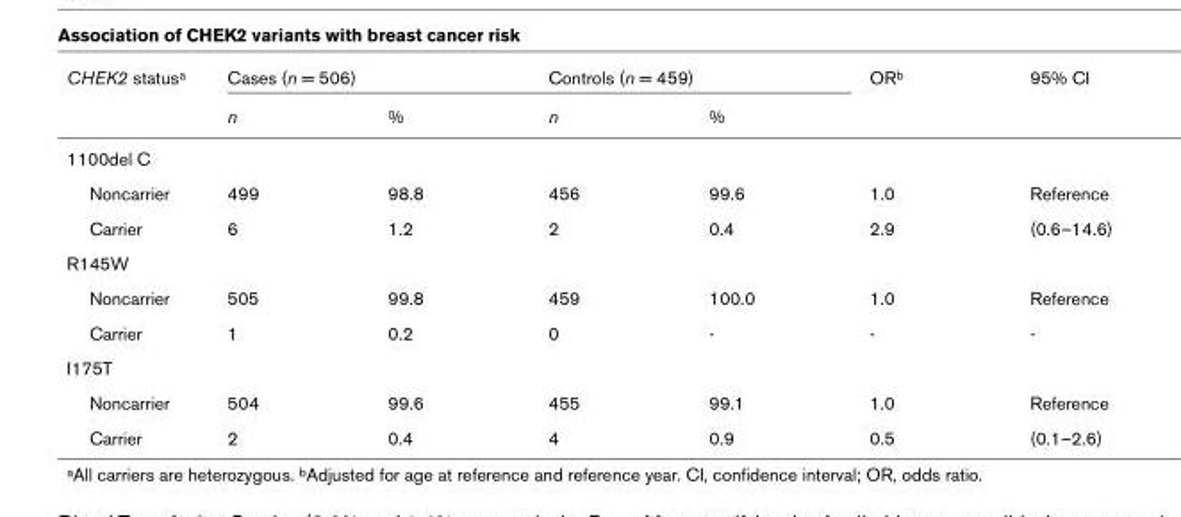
<table><thead><tr><td rowspan="2">CHEK2 statusa</td><td colspan="2">Cases (n = 506)</td><td colspan="2">Controls (n = 459)</td><td rowspan="2">ORb</td><td rowspan="2">95% CI</td></tr><tr><td>n</td><td>%</td><td>n</td><td>%</td></tr></thead><tbody><tr><td colspan="7">1100del C</td></tr><tr><td>Noncarrier</td><td>499</td><td>98.8</td><td>456</td><td>99.6</td><td>1.0</td><td>Reference</td></tr><tr><td>Carrier</td><td>6</td><td>1.2</td><td>2</td><td>0.4</td><td>2.9</td><td>(0.6–14.6)</td></tr><tr><td colspan="7">R145W</td></tr><tr><td>Noncarrier</td><td>505</td><td>99.8</td><td>459</td><td>100.0</td><td>1.0</td><td>Reference</td></tr><tr><td>Carrier</td><td>1</td><td>0.2</td><td>0</td><td>-</td><td>-</td><td>-</td></tr><tr><td colspan="7">I175T</td></tr><tr><td>Noncarrier</td><td>504</td><td>99.6</td><td>455</td><td>99.1</td><td>1.0</td><td>Reference</td></tr><tr><td>Carrier</td><td>2</td><td>0.4</td><td>4</td><td>0.9</td><td>0.5</td><td>(0.1–2.6)</td></tr></tbody></table>